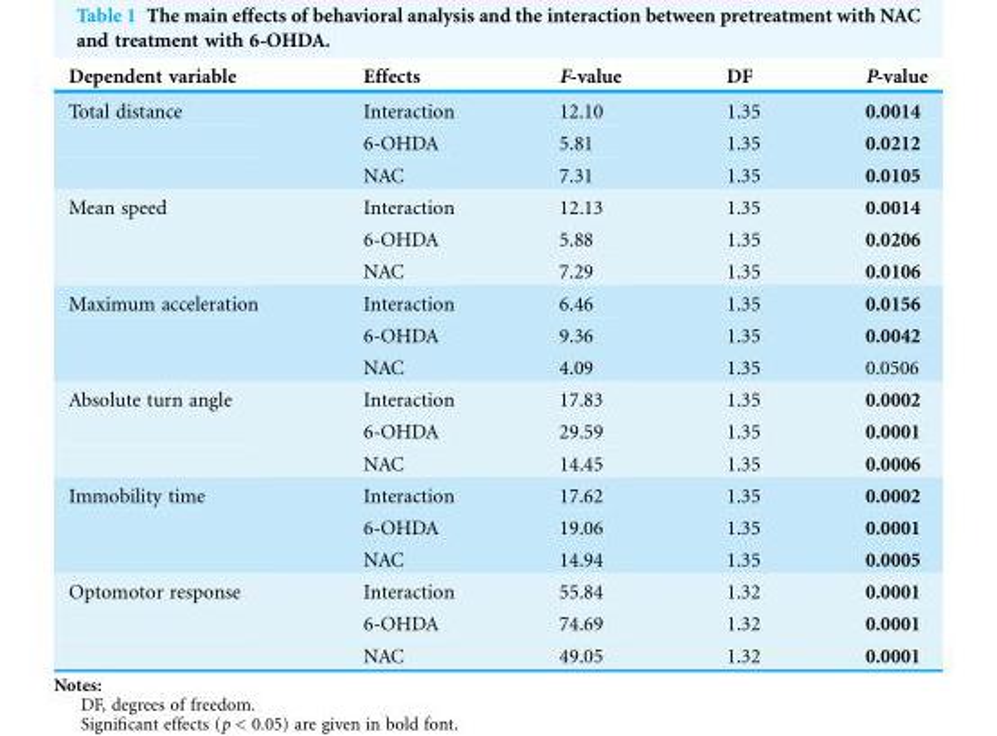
<table><thead><tr><td>Dependent variable</td><td>Effects</td><td>F-value</td><td>DF</td><td>P-value</td></tr></thead><tbody><tr><td rowspan="3">Total distance</td><td>Interaction</td><td>12.10</td><td>1.35</td><td>0.0014</td></tr><tr><td>6-OHDA</td><td>5.81</td><td>1.35</td><td>0.0212</td></tr><tr><td>NAC</td><td>7.31</td><td>1.35</td><td>0.0105</td></tr><tr><td rowspan="3">Mean speed</td><td>Interaction</td><td>12.13</td><td>1.35</td><td>0.0014</td></tr><tr><td>6-OHDA</td><td>5.88</td><td>1.35</td><td>0.0206</td></tr><tr><td>NAC</td><td>7.29</td><td>1.35</td><td>0.0106</td></tr><tr><td rowspan="3">Maximum acceleration</td><td>Interaction</td><td>6.46</td><td>1.35</td><td>0.0156</td></tr><tr><td>6-OHDA</td><td>9.36</td><td>1.35</td><td>0.0042</td></tr><tr><td>NAC</td><td>4.09</td><td>1.35</td><td>0.0506</td></tr><tr><td rowspan="3">Absolute turn angle</td><td>Interaction</td><td>17.83</td><td>1.35</td><td>0.0002</td></tr><tr><td>6-OHDA</td><td>29.59</td><td>1.35</td><td>0.0001</td></tr><tr><td>NAC</td><td>14.45</td><td>1.35</td><td>0.0006</td></tr><tr><td rowspan="3">Immobility time</td><td>Interaction</td><td>17.62</td><td>1.35</td><td>0.0002</td></tr><tr><td>6-OHDA</td><td>19.06</td><td>1.35</td><td>0.0001</td></tr><tr><td>NAC</td><td>14.94</td><td>1.35</td><td>0.0005</td></tr><tr><td rowspan="3">Optomotor response</td><td>Interaction</td><td>55.84</td><td>1.32</td><td>0.0001</td></tr><tr><td>6-OHDA</td><td>74.69</td><td>1.32</td><td>0.0001</td></tr><tr><td>NAC</td><td>49.05</td><td>1.32</td><td>0.0001</td></tr></tbody></table>